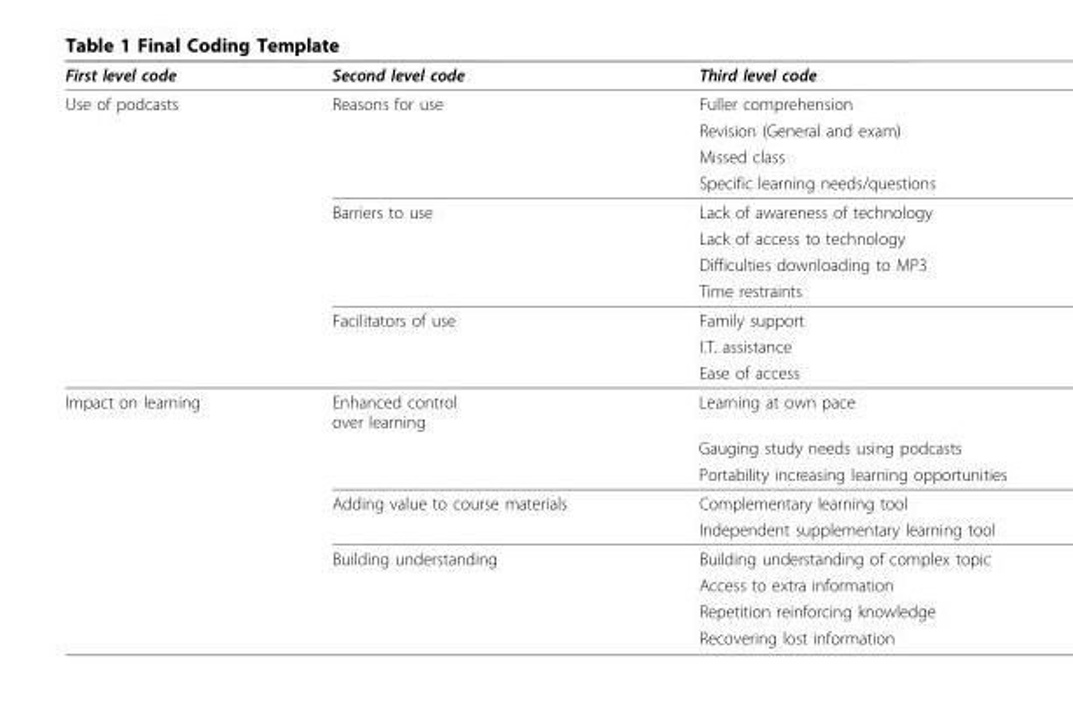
<table><thead><tr><td>First level code</td><td>Second level code</td><td>Third level code</td></tr></thead><tbody><tr><td rowspan="11">Use of podcasts</td><td>Reasons for use</td><td>Fuller comprehension</td></tr><tr><td></td><td>Revision (General and exam)</td></tr><tr><td></td><td>Missed class</td></tr><tr><td></td><td>Specific learning needs/questions</td></tr><tr><td>Barriers to use</td><td>Lack of awareness of technology</td></tr><tr><td></td><td>Lack of access to technology</td></tr><tr><td></td><td>Difficulties downloading to MP3</td></tr><tr><td></td><td>Time restraints</td></tr><tr><td>Facilitators of use</td><td>Family support</td></tr><tr><td></td><td>I.T. assistance</td></tr><tr><td></td><td>Ease of access</td></tr><tr><td rowspan="9">Impact on learning</td><td>Enhanced control over learning</td><td>Learning at own pace</td></tr><tr><td></td><td>Gauging study needs using podcasts</td></tr><tr><td></td><td>Portability increasing learning opportunities</td></tr><tr><td>Adding value to course materials</td><td>Complementary learning tool</td></tr><tr><td></td><td>Independent supplementary learning tool</td></tr><tr><td>Building understanding</td><td>Building understanding of complex topic</td></tr><tr><td></td><td>Access to extra information</td></tr><tr><td></td><td>Repetition reinforcing knowledge</td></tr><tr><td></td><td>Recovering lost information</td></tr></tbody></table>